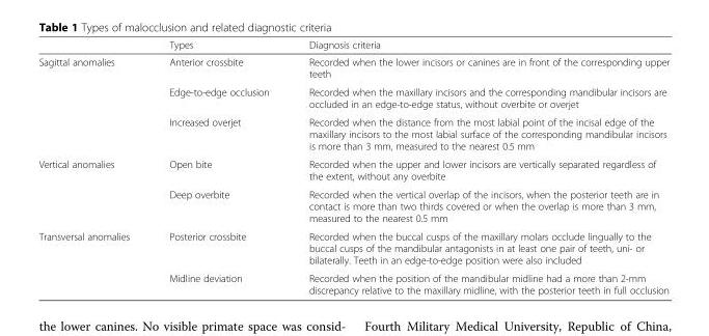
<table><thead><tr><td></td><td>Types</td><td>Diagnosis criteria</td></tr></thead><tbody><tr><td rowspan="3">Sagittal anomalies</td><td>Anterior crossbite</td><td>Recorded when the lower incisors or canines are in front of the corresponding upper teeth</td></tr><tr><td>Edge-to-edge occlusion</td><td>Recorded when the maxillary incisors and the corresponding mandibular incisors are occluded in an edge-to-edge status, without overbite or overjet</td></tr><tr><td>Increased overjet</td><td>Recorded when the distance from the most labial point of the incisal edge of the maxillary incisors to the most labial surface of the corresponding mandibular incisors is more than 3 mm, measured to the nearest 0.5 mm</td></tr><tr><td rowspan="2">Vertical anomalies</td><td>Open bite</td><td>Recorded when the upper and lower incisors are vertically separated regardless of the extent, without any overbite</td></tr><tr><td>Deep overbite</td><td>Recorded when the vertical overlap of the incisors, when the posterior teeth are in contact is more than two thirds covered or when the overlap is more than 3 mm, measured to the nearest 0.5 mm</td></tr><tr><td rowspan="2">Transversal anomalies</td><td>Posterior crossbite</td><td>Recorded when the buccal cusps of the maxillary molars occlude lingually to the buccal cusps of the mandibular antagonists in at least one pair of teeth, uni- or bilaterally. Teeth in an edge-to-edge position were also included</td></tr><tr><td>Midline deviation</td><td>Recorded when the position of the mandibular midline had a more than 2-mm discrepancy relative to the maxillary midline, with the posterior teeth in full occlusion</td></tr></tbody></table>